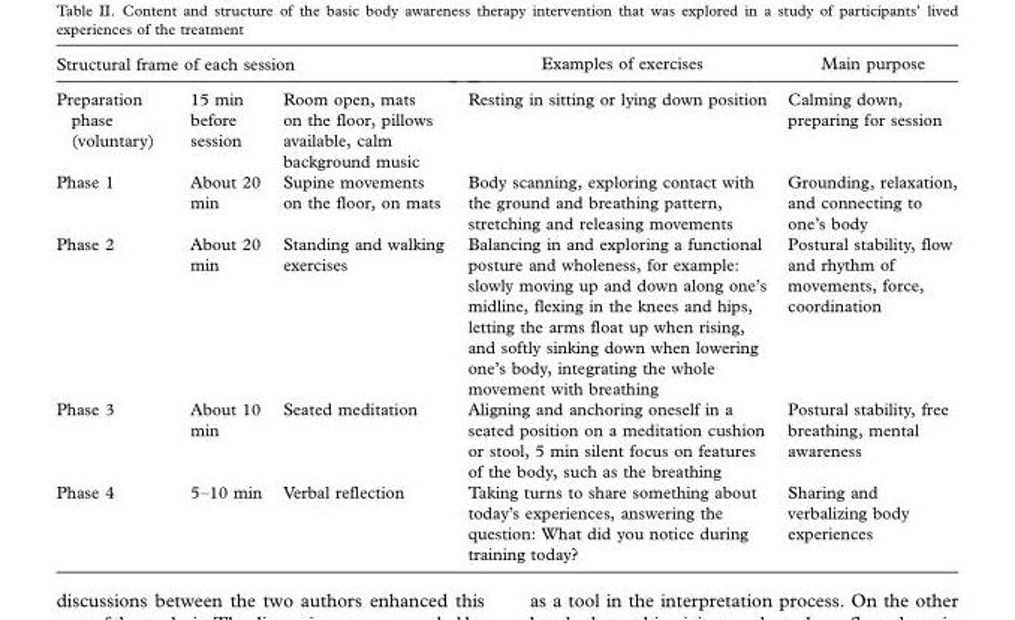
<table><thead><tr><td colspan="3">Structural frame of each session</td><td rowspan="2">Examples of exercises Resting in sitting or lying down position</td><td rowspan="2">Main purpose Calming down, preparing for session</td></tr><tr><td>Preparation phase (voluntary)</td><td>15 min before session</td><td>Room open, mats on the floor, pillows available, calm background music</td></tr></thead><tbody><tr><td>Phase 1</td><td>About 20 min</td><td>Supine movements on the floor, on mats</td><td>Body scanning, exploring contact with the ground and breathing pattern, stretching and releasing movements</td><td>Grounding, relaxation, and connecting to one’s body</td></tr><tr><td>Phase 2</td><td>About 20 min</td><td>Standing and walking exercises</td><td>Balancing in and exploring a functional posture and wholeness, for example: slowly moving up and down along one’s midline, flexing in the knees and hips, letting the arms float up when rising, and softly sinking down when lowering one’s body, integrating the whole movement with breathing</td><td>Postural stability, flow and rhythm of movements, force, coordination</td></tr><tr><td>Phase 3</td><td>About 10 min</td><td>Seated meditation</td><td>Aligning and anchoring oneself in a seated position on a meditation cushion or stool, 5 min silent focus on features of the body, such as the breathing</td><td>Postural stability, free breathing, mental awareness</td></tr><tr><td>Phase 4</td><td>5–10 min</td><td>Verbal reflection</td><td>Taking turns to share something about today’s experiences, answering the question: What did you notice during training today?</td><td>Sharing and verbalizing body experiences</td></tr></tbody></table>